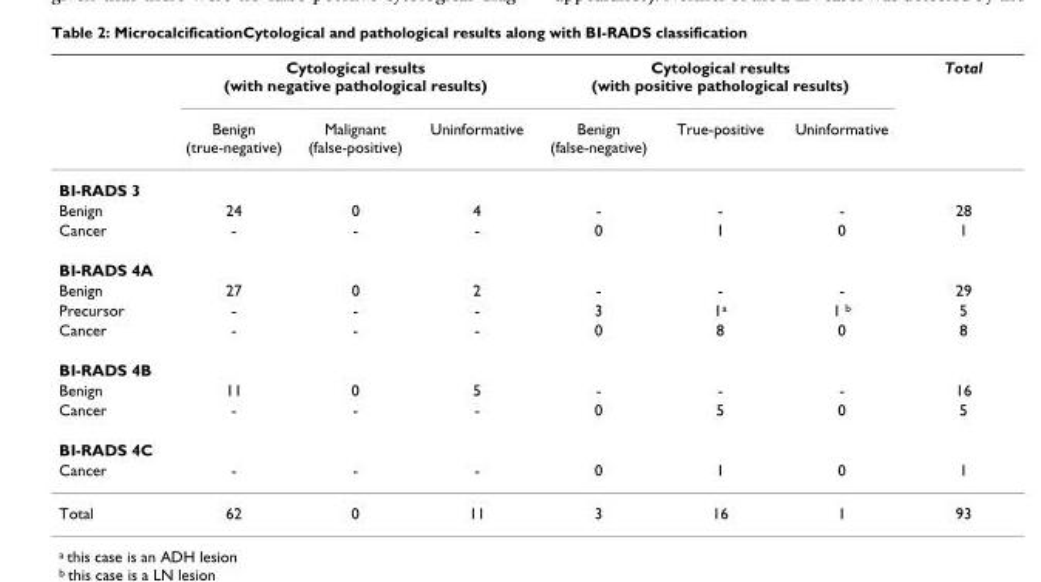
<table><thead><tr><td rowspan="2"></td><td colspan="3">Cytological results (with negative pathological results)</td><td colspan="3">Cytological results (with positive pathological results)</td><td rowspan="2">Total</td></tr><tr><td>Benign (true-negative)</td><td>Malignant (false-positive)</td><td>Uninformative</td><td>Benign (false-negative)</td><td>True-positive</td><td>Uninformative</td></tr></thead><tbody><tr><td colspan="8">BI-RADS 3</td></tr><tr><td>Benign</td><td>24</td><td>0</td><td>4</td><td>-</td><td>-</td><td>-</td><td>28</td></tr><tr><td>Cancer</td><td>-</td><td>-</td><td>-</td><td>0</td><td>1</td><td>0</td><td>1</td></tr><tr><td colspan="8">BI-RADS 4A</td></tr><tr><td>Benign</td><td>27</td><td>0</td><td>2</td><td>-</td><td>-</td><td>-</td><td>29</td></tr><tr><td>Precursor</td><td>-</td><td>-</td><td>-</td><td>3</td><td>1<sup>a</sup></td><td>1 <sup>b</sup></td><td>5</td></tr><tr><td>Cancer</td><td>-</td><td>-</td><td>-</td><td>0</td><td>8</td><td>0</td><td>8</td></tr><tr><td colspan="8">BI-RADS 4B</td></tr><tr><td>Benign</td><td>11</td><td>0</td><td>5</td><td>-</td><td>-</td><td>-</td><td>16</td></tr><tr><td>Cancer</td><td>-</td><td>-</td><td>-</td><td>0</td><td>5</td><td>0</td><td>5</td></tr><tr><td colspan="8">BI-RADS 4C</td></tr><tr><td>Cancer</td><td>-</td><td>-</td><td>-</td><td>0</td><td>1</td><td>0</td><td>1</td></tr><tr><td>Total</td><td>62</td><td>0</td><td>11</td><td>3</td><td>16</td><td>1</td><td>93</td></tr></tbody></table>